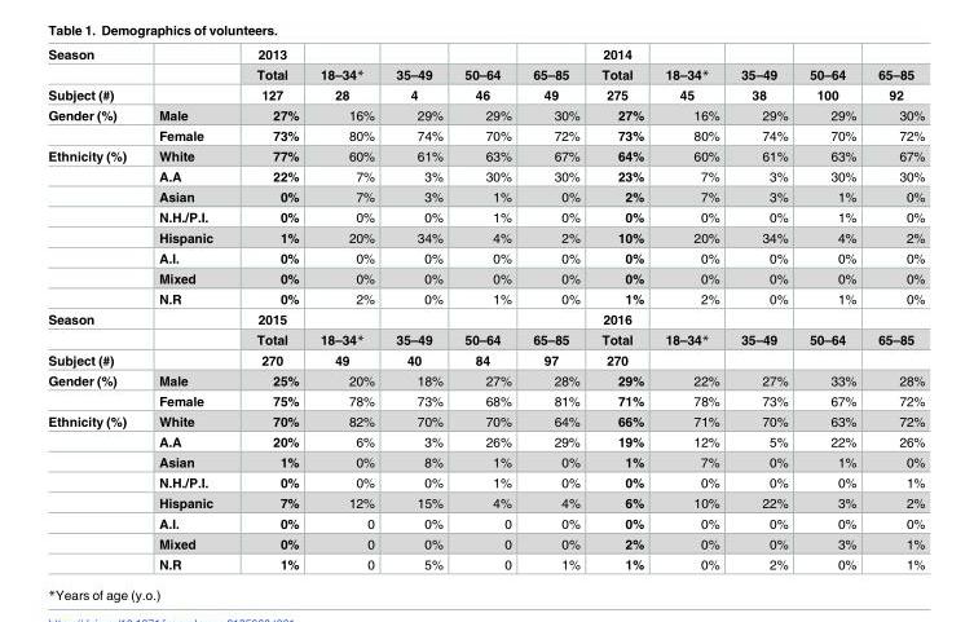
<table><tbody><tr><td rowspan="2">Season</td><td></td><td>2013</td><td></td><td></td><td></td><td></td><td>2014</td><td></td><td></td><td></td><td></td></tr><tr><td></td><td>Total</td><td>18–34*</td><td>35–49</td><td>50–64</td><td>65–85</td><td>Total</td><td>18–34*</td><td>35–49</td><td>50–64</td><td>65–85</td></tr><tr><td>Subject (#)</td><td></td><td>127</td><td>28</td><td>4</td><td>46</td><td>49</td><td>275</td><td>45</td><td>38</td><td>100</td><td>92</td></tr><tr><td rowspan="2">Gender (%)</td><td>Male</td><td>27%</td><td>16%</td><td>29%</td><td>29%</td><td>30%</td><td>27%</td><td>16%</td><td>29%</td><td>29%</td><td>30%</td></tr><tr><td>Female</td><td>73%</td><td>80%</td><td>74%</td><td>70%</td><td>72%</td><td>73%</td><td>80%</td><td>74%</td><td>70%</td><td>72%</td></tr><tr><td rowspan="8">Ethnicity (%)</td><td>White</td><td>77%</td><td>60%</td><td>61%</td><td>63%</td><td>67%</td><td>64%</td><td>60%</td><td>61%</td><td>63%</td><td>67%</td></tr><tr><td>A.A</td><td>22%</td><td>7%</td><td>3%</td><td>30%</td><td>30%</td><td>23%</td><td>7%</td><td>3%</td><td>30%</td><td>30%</td></tr><tr><td>Asian</td><td>0%</td><td>7%</td><td>3%</td><td>1%</td><td>0%</td><td>2%</td><td>7%</td><td>3%</td><td>1%</td><td>0%</td></tr><tr><td>N.H./P.I.</td><td>0%</td><td>0%</td><td>0%</td><td>1%</td><td>0%</td><td>0%</td><td>0%</td><td>0%</td><td>1%</td><td>0%</td></tr><tr><td>Hispanic</td><td>1%</td><td>20%</td><td>34%</td><td>4%</td><td>2%</td><td>10%</td><td>20%</td><td>34%</td><td>4%</td><td>2%</td></tr><tr><td>A.I.</td><td>0%</td><td>0%</td><td>0%</td><td>0%</td><td>0%</td><td>0%</td><td>0%</td><td>0%</td><td>0%</td><td>0%</td></tr><tr><td>Mixed</td><td>0%</td><td>0%</td><td>0%</td><td>0%</td><td>0%</td><td>0%</td><td>0%</td><td>0%</td><td>0%</td><td>0%</td></tr><tr><td>N.R</td><td>0%</td><td>2%</td><td>0%</td><td>1%</td><td>0%</td><td>1%</td><td>2%</td><td>0%</td><td>1%</td><td>0%</td></tr><tr><td rowspan="2">Season</td><td></td><td>2015</td><td></td><td></td><td></td><td></td><td>2016</td><td></td><td></td><td></td><td></td></tr><tr><td></td><td>Total</td><td>18–34*</td><td>35–49</td><td>50–64</td><td>65–85</td><td>Total</td><td>18–34*</td><td>35–49</td><td>50–64</td><td>65–85</td></tr><tr><td>Subject (#)</td><td></td><td>270</td><td>49</td><td>40</td><td>84</td><td>97</td><td>270</td><td></td><td></td><td></td><td></td></tr><tr><td rowspan="2">Gender (%)</td><td>Male</td><td>25%</td><td>20%</td><td>18%</td><td>27%</td><td>28%</td><td>29%</td><td>22%</td><td>27%</td><td>33%</td><td>28%</td></tr><tr><td>Female</td><td>75%</td><td>78%</td><td>73%</td><td>68%</td><td>81%</td><td>71%</td><td>78%</td><td>73%</td><td>67%</td><td>72%</td></tr><tr><td rowspan="8">Ethnicity (%)</td><td>White</td><td>70%</td><td>82%</td><td>70%</td><td>70%</td><td>64%</td><td>66%</td><td>71%</td><td>70%</td><td>63%</td><td>72%</td></tr><tr><td>A.A</td><td>20%</td><td>6%</td><td>3%</td><td>26%</td><td>29%</td><td>19%</td><td>12%</td><td>5%</td><td>22%</td><td>26%</td></tr><tr><td>Asian</td><td>1%</td><td>0%</td><td>8%</td><td>1%</td><td>0%</td><td>1%</td><td>7%</td><td>0%</td><td>1%</td><td>0%</td></tr><tr><td>N.H./P.I.</td><td>0%</td><td>0%</td><td>0%</td><td>1%</td><td>0%</td><td>0%</td><td>0%</td><td>0%</td><td>0%</td><td>1%</td></tr><tr><td>Hispanic</td><td>7%</td><td>12%</td><td>15%</td><td>4%</td><td>4%</td><td>6%</td><td>10%</td><td>22%</td><td>3%</td><td>2%</td></tr><tr><td>A.I.</td><td>0%</td><td>0</td><td>0%</td><td>0</td><td>0%</td><td>0%</td><td>0%</td><td>0%</td><td>0%</td><td>0%</td></tr><tr><td>Mixed</td><td>0%</td><td>0</td><td>0%</td><td>0</td><td>0%</td><td>2%</td><td>0%</td><td>0%</td><td>3%</td><td>1%</td></tr><tr><td>N.R</td><td>1%</td><td>0</td><td>5%</td><td>0</td><td>1%</td><td>1%</td><td>0%</td><td>2%</td><td>0%</td><td>1%</td></tr></tbody></table>